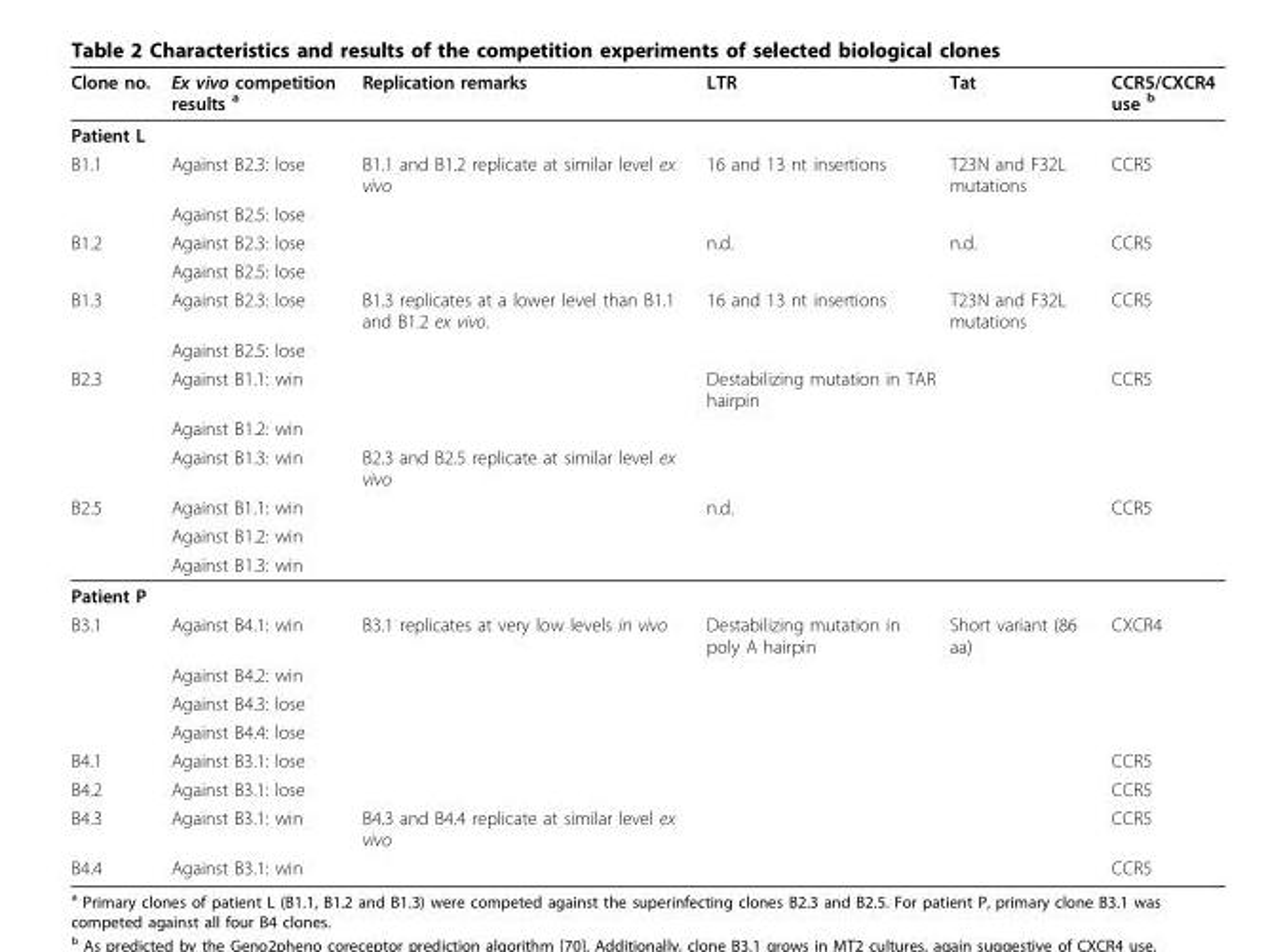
<table><thead><tr><td>Clone no.</td><td>Ex vivo competition results <sup>a</sup></td><td>Replication remarks</td><td>LTR</td><td>Tat</td><td>CCR5/CXCR4 use <sup>b</sup></td></tr></thead><tbody><tr><td colspan="6">Patient L</td></tr><tr><td rowspan="2">B1.1</td><td>Against B2.3: lose</td><td>B1.1 and B1.2 replicate at similar level ex vivo</td><td>16 and 13 nt insertions</td><td>T23N and F32L mutations</td><td>CCR5</td></tr><tr><td>Against B2.5: lose</td><td></td><td></td><td></td><td></td></tr><tr><td rowspan="2">B1.2</td><td>Against B2.3: lose</td><td></td><td>n.d.</td><td>n.d.</td><td>CCR5</td></tr><tr><td>Against B2.5: lose</td><td></td><td></td><td></td><td></td></tr><tr><td rowspan="2">B1.3</td><td>Against B2.3: lose</td><td>B1.3 replicates at a lower level than B1.1 and B1.2 ex vivo.</td><td>16 and 13 nt insertions</td><td>T23N and F32L mutations</td><td>CCR5</td></tr><tr><td>Against B2.5: lose</td><td></td><td></td><td></td><td></td></tr><tr><td rowspan="3">B2.3</td><td>Against B1.1: win</td><td></td><td>Destabilizing mutation in TAR hairpin</td><td></td><td>CCR5</td></tr><tr><td>Against B1.2: win</td><td></td><td></td><td></td><td></td></tr><tr><td>Against B1.3: win</td><td>B2.3 and B2.5 replicate at similar level ex vivo</td><td></td><td></td><td></td></tr><tr><td rowspan="3">B2.5</td><td>Against B1.1: win</td><td></td><td>n.d.</td><td></td><td>CCR5</td></tr><tr><td>Against B1.2: win</td><td></td><td></td><td></td><td></td></tr><tr><td>Against B1.3: win</td><td></td><td></td><td></td><td></td></tr><tr><td colspan="6">Patient P</td></tr><tr><td rowspan="4">B3.1</td><td>Against B4.1: win</td><td>B3.1 replicates at very low levels in vivo</td><td>Destabilizing mutation in poly A hairpin</td><td>Short variant (86 aa)</td><td>CXCR4</td></tr><tr><td>Against B4.2: win</td><td></td><td></td><td></td><td></td></tr><tr><td>Against B4.3: lose</td><td></td><td></td><td></td><td></td></tr><tr><td>Against B4.4: lose</td><td></td><td></td><td></td><td></td></tr><tr><td>B4.1</td><td>Against B3.1: lose</td><td></td><td></td><td></td><td>CCR5</td></tr><tr><td>B4.2</td><td>Against B3.1: lose</td><td></td><td></td><td></td><td>CCR5</td></tr><tr><td>B4.3</td><td>Against B3.1: win</td><td>B4.3 and B4.4 replicate at similar level ex vivo</td><td></td><td></td><td>CCR5</td></tr><tr><td>B4.4</td><td>Against B3.1: win</td><td></td><td></td><td></td><td>CCR5</td></tr></tbody></table>